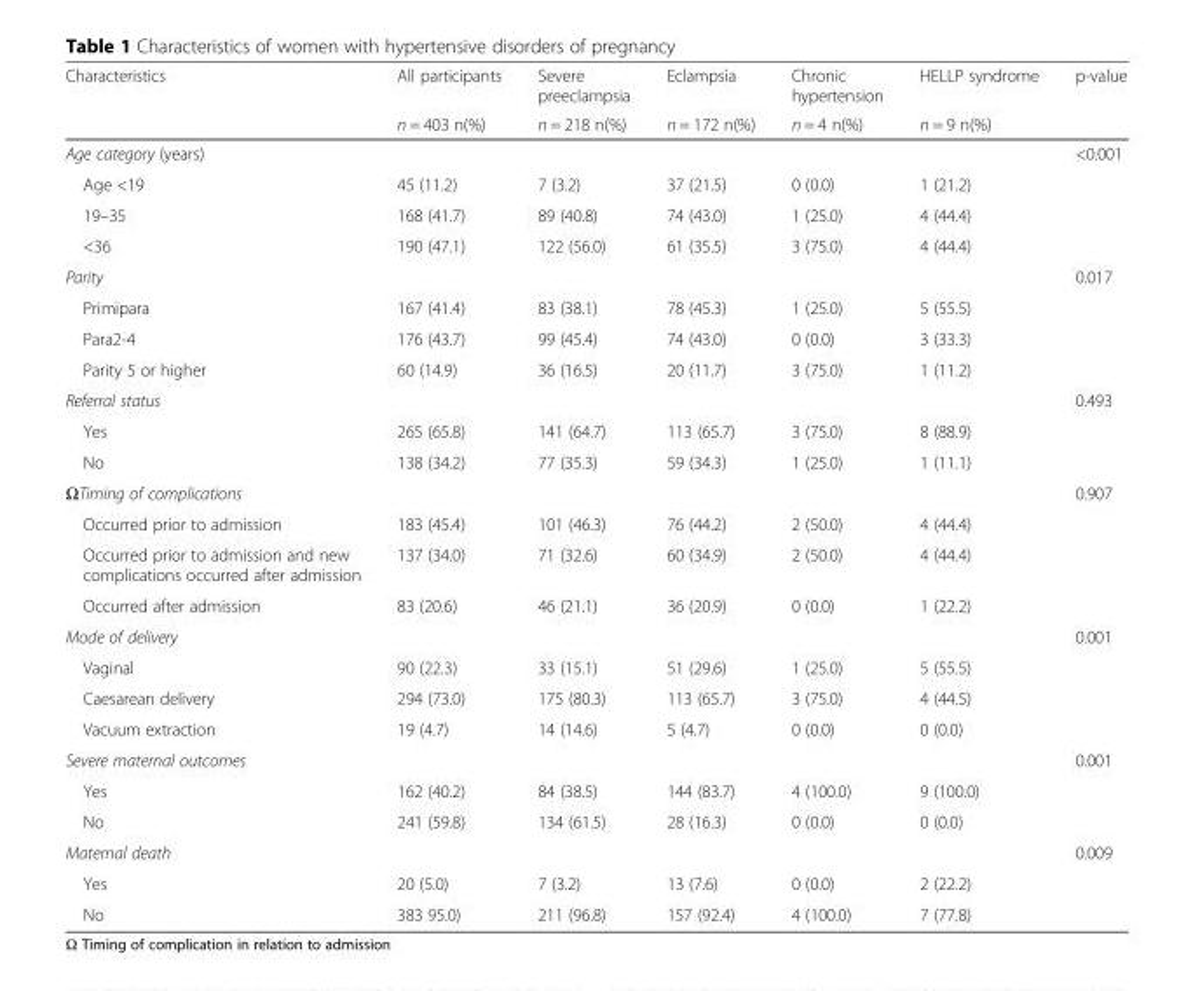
<table><thead><tr><td rowspan="2">Characteristics</td><td rowspan="2">All participants n = 403 n(%)</td><td rowspan="2">Severe preeclampsia n = 218 n(%)</td><td rowspan="2">Eclampsia n = 172 n(%)</td><td rowspan="2">Chronic hypertension n = 4 n(%)</td><td rowspan="2">HELLP syndrome n = 9 n(%)</td><td rowspan="2">p-value</td></tr><tr></tr></thead><tbody><tr><td>Age category (years)</td><td></td><td></td><td></td><td></td><td></td><td>&lt;0.001</td></tr><tr><td>Age &lt;19</td><td>45 (11.2)</td><td>7 (3.2)</td><td>37 (21.5)</td><td>0 (0.0)</td><td>1 (21.2)</td><td rowspan="3"></td></tr><tr><td>19–35</td><td>168 (41.7)</td><td>89 (40.8)</td><td>74 (43.0)</td><td>1 (25.0)</td><td>4 (44.4)</td></tr><tr><td>&lt;36</td><td>190 (47.1)</td><td>122 (56.0)</td><td>61 (35.5)</td><td>3 (75.0)</td><td>4 (44.4)</td></tr><tr><td>Parity</td><td></td><td></td><td></td><td></td><td></td><td>0.017</td></tr><tr><td>Primipara</td><td>167 (41.4)</td><td>83 (38.1)</td><td>78 (45.3)</td><td>1 (25.0)</td><td>5 (55.5)</td><td rowspan="3"></td></tr><tr><td>Para2-4</td><td>176 (43.7)</td><td>99 (45.4)</td><td>74 (43.0)</td><td>0 (0.0)</td><td>3 (33.3)</td></tr><tr><td>Parity 5 or higher</td><td>60 (14.9)</td><td>36 (16.5)</td><td>20 (11.7)</td><td>3 (75.0)</td><td>1 (11.2)</td></tr><tr><td>Referral status</td><td></td><td></td><td></td><td></td><td></td><td>0.493</td></tr><tr><td>Yes</td><td>265 (65.8)</td><td>141 (64.7)</td><td>113 (65.7)</td><td>3 (75.0)</td><td>8 (88.9)</td><td rowspan="2"></td></tr><tr><td>No</td><td>138 (34.2)</td><td>77 (35.3)</td><td>59 (34.3)</td><td>1 (25.0)</td><td>1 (11.1)</td></tr><tr><td>ΩTiming of complications</td><td></td><td></td><td></td><td></td><td></td><td>0.907</td></tr><tr><td>Occurred prior to admission</td><td>183 (45.4)</td><td>101 (46.3)</td><td>76 (44.2)</td><td>2 (50.0)</td><td>4 (44.4)</td><td rowspan="3"></td></tr><tr><td>Occurred prior to admission and new complications occurred after admission</td><td>137 (34.0)</td><td>71 (32.6)</td><td>60 (34.9)</td><td>2 (50.0)</td><td>4 (44.4)</td></tr><tr><td>Occurred after admission</td><td>83 (20.6)</td><td>46 (21.1)</td><td>36 (20.9)</td><td>0 (0.0)</td><td>1 (22.2)</td></tr><tr><td>Mode of delivery</td><td></td><td></td><td></td><td></td><td></td><td>0.001</td></tr><tr><td>Vaginal</td><td>90 (22.3)</td><td>33 (15.1)</td><td>51 (29.6)</td><td>1 (25.0)</td><td>5 (55.5)</td><td rowspan="3"></td></tr><tr><td>Caesarean delivery</td><td>294 (73.0)</td><td>175 (80.3)</td><td>113 (65.7)</td><td>3 (75.0)</td><td>4 (44.5)</td></tr><tr><td>Vacuum extraction</td><td>19 (4.7)</td><td>14 (14.6)</td><td>5 (4.7)</td><td>0 (0.0)</td><td>0 (0.0)</td></tr><tr><td>Severe maternal outcomes</td><td></td><td></td><td></td><td></td><td></td><td>0.001</td></tr><tr><td>Yes</td><td>162 (40.2)</td><td>84 (38.5)</td><td>144 (83.7)</td><td>4 (100.0)</td><td>9 (100.0)</td><td rowspan="2"></td></tr><tr><td>No</td><td>241 (59.8)</td><td>134 (61.5)</td><td>28 (16.3)</td><td>0 (0.0)</td><td>0 (0.0)</td></tr><tr><td>Maternal death</td><td></td><td></td><td></td><td></td><td></td><td>0.009</td></tr><tr><td>Yes</td><td>20 (5.0)</td><td>7 (3.2)</td><td>13 (7.6)</td><td>0 (0.0)</td><td>2 (22.2)</td><td rowspan="2"></td></tr><tr><td>No</td><td>383 95.0)</td><td>211 (96.8)</td><td>157 (92.4)</td><td>4 (100.0)</td><td>7 (77.8)</td></tr></tbody></table>